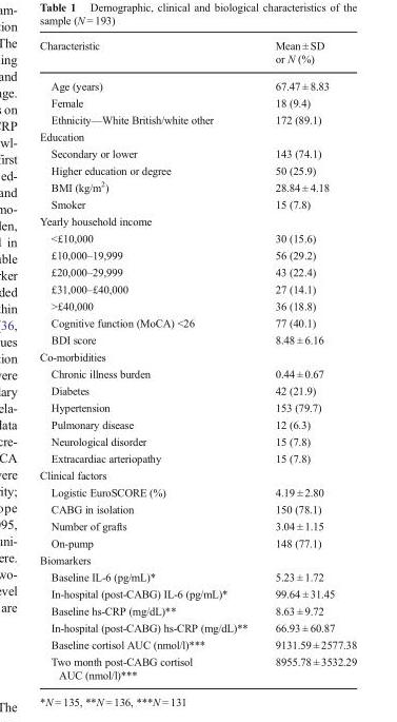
<table><thead><tr><td>Characteristic</td><td>Mean ± SD or N (%)</td></tr></thead><tbody><tr><td>Age (years)</td><td>67.47 ± 8.83</td></tr><tr><td>Female</td><td>18 (9.4)</td></tr><tr><td>Ethnicity—White British/white other</td><td>172 (89.1)</td></tr><tr><td colspan="2">Education</td></tr><tr><td>Secondary or lower</td><td>143 (74.1)</td></tr><tr><td>Higher education or degree</td><td>50 (25.9)</td></tr><tr><td>BMI (kg/m<sup>2</sup>)</td><td>28.84 ± 4.18</td></tr><tr><td>Smoker</td><td>15 (7.8)</td></tr><tr><td colspan="2">Yearly household income</td></tr><tr><td>&lt;£10,000</td><td>30 (15.6)</td></tr><tr><td>£10,000–19,999</td><td>56 (29.2)</td></tr><tr><td>£20,000–29,999</td><td>43 (22.4)</td></tr><tr><td>£31,000–£40,000</td><td>27 (14.1)</td></tr><tr><td>&gt;£40,000</td><td>36 (18.8)</td></tr><tr><td>Cognitive function (MoCA) &lt;26</td><td>77 (40.1)</td></tr><tr><td>BDI score</td><td>8.48 ± 6.16</td></tr><tr><td colspan="2">Co-morbidities</td></tr><tr><td>Chronic illness burden</td><td>0.44 ± 0.67</td></tr><tr><td>Diabetes</td><td>42 (21.9)</td></tr><tr><td>Hypertension</td><td>153 (79.7)</td></tr><tr><td>Pulmonary disease</td><td>12 (6.3)</td></tr><tr><td>Neurological disorder</td><td>15 (7.8)</td></tr><tr><td>Extracardiac arteriopathy</td><td>15 (7.8)</td></tr><tr><td colspan="2">Clinical factors</td></tr><tr><td>Logistic EuroSCORE (%)</td><td>4.19 ± 2.80</td></tr><tr><td>CABG in isolation</td><td>150 (78.1)</td></tr><tr><td>Number of grafts</td><td>3.04 ± 1.15</td></tr><tr><td>On-pump</td><td>148 (77.1)</td></tr><tr><td colspan="2">Biomarkers</td></tr><tr><td>Baseline IL-6 (pg/mL)*</td><td>5.23 ± 1.72</td></tr><tr><td>In-hospital (post-CABG) IL-6 (pg/mL)*</td><td>99.64 ± 31.45</td></tr><tr><td>Baseline hs-CRP (mg/dL)**</td><td>8.63 ± 9.72</td></tr><tr><td>In-hospital (post-CABG) hs-CRP (mg/dL)**</td><td>66.93 ± 60.87</td></tr><tr><td>Baseline cortisol AUC (nmol/l)***</td><td>9131.59 ± 2577.38</td></tr><tr><td>Two month post-CABG cortisol AUC (nmol/l)***</td><td>8955.78 ± 3532.29</td></tr></tbody></table>